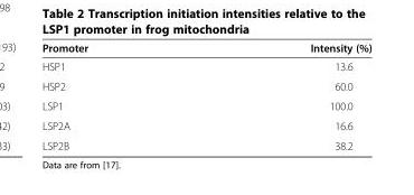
<table><thead><tr><td>Promoter</td><td>Intensity (%)</td></tr></thead><tbody><tr><td>HSP1</td><td>13.6</td></tr><tr><td>HSP2</td><td>60.0</td></tr><tr><td>LSP1</td><td>100.0</td></tr><tr><td>LSP2A</td><td>16.6</td></tr><tr><td>LSP2B</td><td>38.2</td></tr></tbody></table>